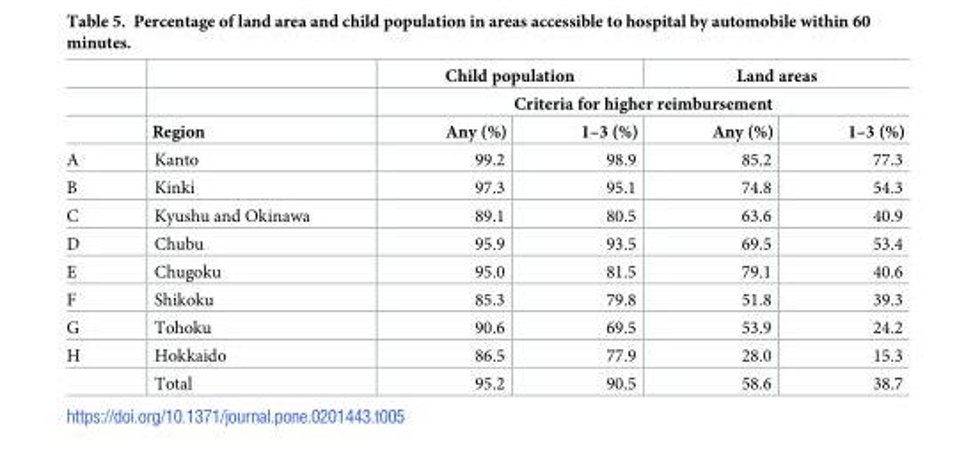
<table><thead><tr><td rowspan="3"></td><td rowspan="3">Region</td><td colspan="2">Child population</td><td colspan="2">Land areas</td></tr><tr><td colspan="4">Criteria for higher reimbursement</td></tr><tr><td>Any (%)</td><td>1–3 (%)</td><td>Any (%)</td><td>1–3 (%)</td></tr></thead><tbody><tr><td>A</td><td>Kanto</td><td>99.2</td><td>98.9</td><td>85.2</td><td>77.3</td></tr><tr><td>B</td><td>Kinki</td><td>97.3</td><td>95.1</td><td>74.8</td><td>54.3</td></tr><tr><td>C</td><td>Kyushu and Okinawa</td><td>89.1</td><td>80.5</td><td>63.6</td><td>40.9</td></tr><tr><td>D</td><td>Chubu</td><td>95.9</td><td>93.5</td><td>69.5</td><td>53.4</td></tr><tr><td>E</td><td>Chugoku</td><td>95.0</td><td>81.5</td><td>79.1</td><td>40.6</td></tr><tr><td>F</td><td>Shikoku</td><td>85.3</td><td>79.8</td><td>51.8</td><td>39.3</td></tr><tr><td>G</td><td>Tohoku</td><td>90.6</td><td>69.5</td><td>53.9</td><td>24.2</td></tr><tr><td rowspan="2">H</td><td>Hokkaido</td><td>86.5</td><td>77.9</td><td>28.0</td><td>15.3</td></tr><tr><td>Total</td><td>95.2</td><td>90.5</td><td>58.6</td><td>38.7</td></tr></tbody></table>